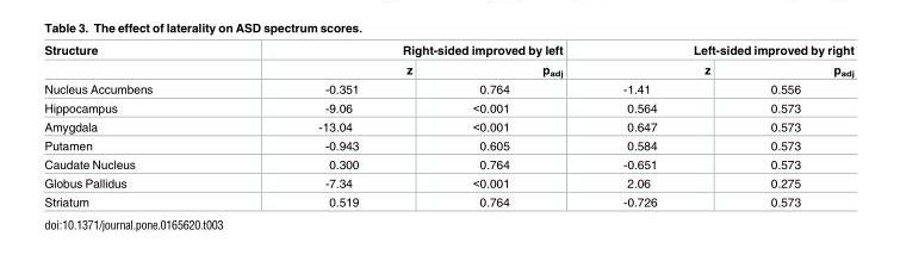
<table><thead><tr><td rowspan="2">Structure</td><td colspan="2">Right-sided improved by left</td><td colspan="2">Left-sided improved by right</td></tr><tr><td>z</td><td>p<sub>adj</sub></td><td>z</td><td>p<sub>adj</sub></td></tr></thead><tbody><tr><td>Nucleus Accumbens</td><td>-0.351</td><td>0.764</td><td>-1.41</td><td>0.556</td></tr><tr><td>Hippocampus</td><td>-9.06</td><td>&lt;0.001</td><td>0.564</td><td>0.573</td></tr><tr><td>Amygdala</td><td>-13.04</td><td>&lt;0.001</td><td>0.647</td><td>0.573</td></tr><tr><td>Putamen</td><td>-0.943</td><td>0.605</td><td>0.584</td><td>0.573</td></tr><tr><td>Caudate Nucleus</td><td>0.300</td><td>0.764</td><td>-0.651</td><td>0.573</td></tr><tr><td>Globus Pallidus</td><td>-7.34</td><td>&lt;0.001</td><td>2.06</td><td>0.275</td></tr><tr><td>Striatum</td><td>0.519</td><td>0.764</td><td>-0.726</td><td>0.573</td></tr></tbody></table>